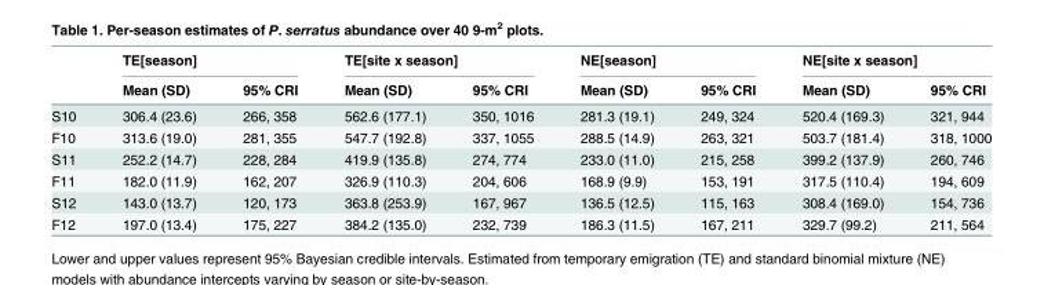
<table><thead><tr><td rowspan="2"></td><td colspan="2">TE[season]</td><td colspan="2">TE[site x season]</td><td colspan="2">NE[season]</td><td colspan="2">NE[site x season]</td></tr><tr><td>Mean (SD)</td><td>95% CRI</td><td>Mean (SD)</td><td>95% CRI</td><td>Mean (SD)</td><td>95% CRI</td><td>Mean (SD)</td><td>95% CRI</td></tr></thead><tbody><tr><td>S10</td><td>306.4 (23.6)</td><td>266, 358</td><td>562.6 (177.1)</td><td>350, 1016</td><td>281.3 (19.1)</td><td>249, 324</td><td>520.4 (169.3)</td><td>321, 944</td></tr><tr><td>F10</td><td>313.6 (19.0)</td><td>281, 355</td><td>547.7 (192.8)</td><td>337, 1055</td><td>288.5 (14.9)</td><td>263, 321</td><td>503.7 (181.4)</td><td>318, 1000</td></tr><tr><td>S11</td><td>252.2 (14.7)</td><td>228, 284</td><td>419.9 (135.8)</td><td>274, 774</td><td>233.0 (11.0)</td><td>215, 258</td><td>399.2 (137.9)</td><td>260, 746</td></tr><tr><td>F11</td><td>182.0 (11.9)</td><td>162, 207</td><td>326.9 (110.3)</td><td>204, 606</td><td>168.9 (9.9)</td><td>153, 191</td><td>317.5 (110.4)</td><td>194, 609</td></tr><tr><td>S12</td><td>143.0 (13.7)</td><td>120, 173</td><td>363.8 (253.9)</td><td>167, 967</td><td>136.5 (12.5)</td><td>115, 163</td><td>308.4 (169.0)</td><td>154, 736</td></tr><tr><td>F12</td><td>197.0 (13.4)</td><td>175, 227</td><td>384.2 (135.0)</td><td>232, 739</td><td>186.3 (11.5)</td><td>167, 211</td><td>329.7 (99.2)</td><td>211, 564</td></tr></tbody></table>